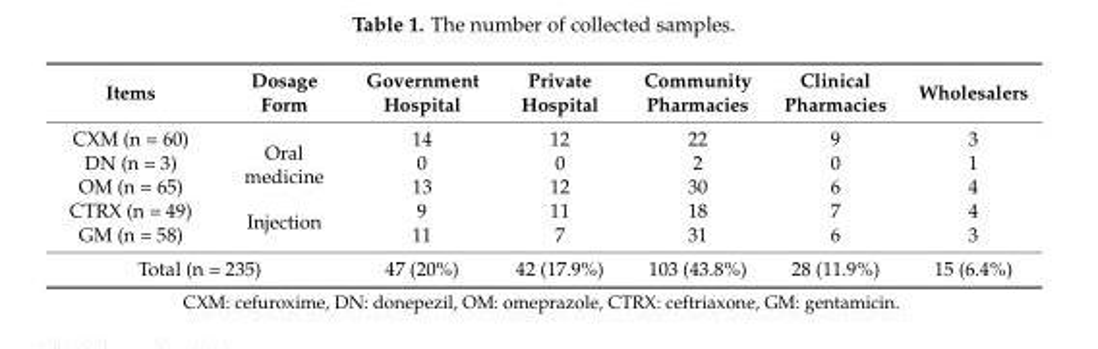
<table><thead><tr><td>Items</td><td>Dosage Form</td><td>Government Hospital</td><td>Private Hospital</td><td>Community Pharmacies</td><td>Clinical Pharmacies</td><td>Wholesalers</td></tr></thead><tbody><tr><td>CXM (n = 60)</td><td rowspan="3">Oral medicine</td><td>14</td><td>12</td><td>22</td><td>9</td><td>3</td></tr><tr><td>DN (n = 3)</td><td>0</td><td>0</td><td>2</td><td>0</td><td>1</td></tr><tr><td>OM (n = 65)</td><td>13</td><td>12</td><td>30</td><td>6</td><td>4</td></tr><tr><td>CTRX (n = 49)</td><td rowspan="2">Injection</td><td>9</td><td>11</td><td>18</td><td>7</td><td>4</td></tr><tr><td>GM (n = 58)</td><td>11</td><td>7</td><td>31</td><td>6</td><td>3</td></tr><tr><td colspan="2">Total (n = 235)</td><td>47 (20%)</td><td>42 (17.9%)</td><td>103 (43.8%)</td><td>28 (11.9%)</td><td>15 (6.4%)</td></tr></tbody></table>